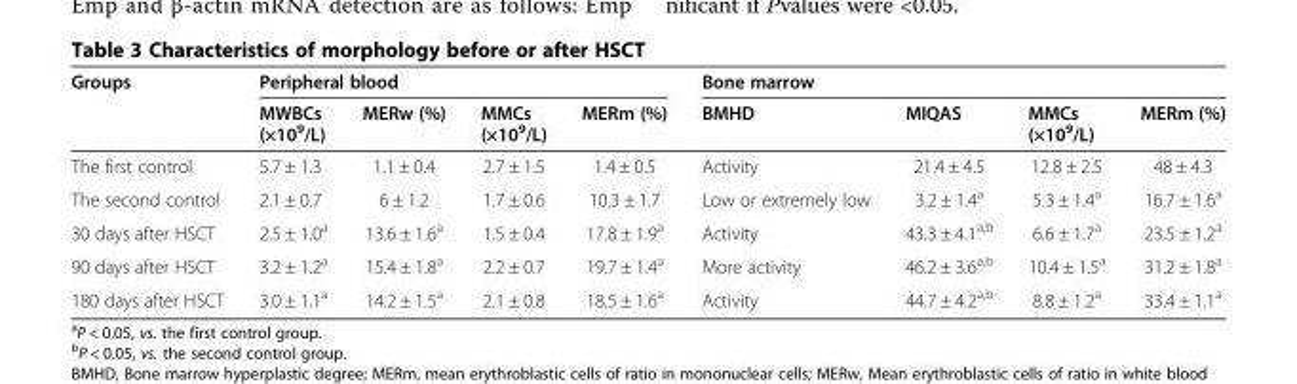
<table><thead><tr><td rowspan="2">Groups</td><td colspan="4">Peripheral blood</td><td colspan="4">Bone marrow</td></tr><tr><td>MWBCs (×10<sup>9</sup>/L)</td><td>MERw (%)</td><td>MMCs (×10<sup>9</sup>/L)</td><td>MERm (%)</td><td>BMHD</td><td>MIQAS</td><td>MMCs (×10<sup>9</sup>/L)</td><td>MERm (%)</td></tr></thead><tbody><tr><td>The first control</td><td>5.7 ± 1.3</td><td>1.1 ± 0.4</td><td>2.7 ± 1.5</td><td>1.4 ± 0.5</td><td>Activity</td><td>21.4 ± 4.5</td><td>12.8 ± 2.5</td><td>48 ± 4.3</td></tr><tr><td>The second control</td><td>2.1 ± 0.7</td><td>6 ± 1.2</td><td>1.7 ± 0.6</td><td>10.3 ± 1.7</td><td>Low or extremely low</td><td>3.2 ± 1.4<sup>a</sup></td><td>5.3 ± 1.4<sup>a</sup></td><td>16.7 ± 1.6<sup>a</sup></td></tr><tr><td>30 days after HSCT</td><td>2.5 ± 1.0<sup>a</sup></td><td>13.6 ± 1.6<sup>a</sup></td><td>1.5 ± 0.4</td><td>17.8 ± 1.9<sup>a</sup></td><td>Activity</td><td>43.3 ± 4.1<sup>a,b</sup></td><td>6.6 ± 1.7<sup>a</sup></td><td>23.5 ± 1.2<sup>a</sup></td></tr><tr><td>90 days after HSCT</td><td>3.2 ± 1.2<sup>a</sup></td><td>15.4 ± 1.8<sup>a</sup></td><td>2.2 ± 0.7</td><td>19.7 ± 1.4<sup>a</sup></td><td>More activity</td><td>46.2 ± 3.6<sup>a,b</sup></td><td>10.4 ± 1.5<sup>a</sup></td><td>31.2 ± 1.8<sup>a</sup></td></tr><tr><td>180 days after HSCT</td><td>3.0 ± 1.1<sup>a</sup></td><td>14.2 ± 1.5<sup>a</sup></td><td>2.1 ± 0.8</td><td>18.5 ± 1.6<sup>a</sup></td><td>Activity</td><td>44.7 ± 4.2<sup>a,b</sup></td><td>8.8 ± 1.2<sup>a</sup></td><td>33.4 ± 1.1<sup>a</sup></td></tr></tbody></table>